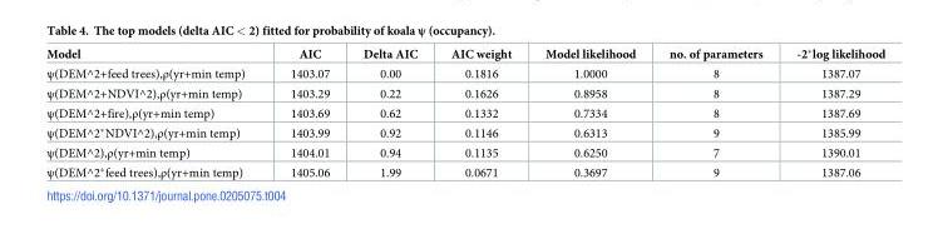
<table><thead><tr><td>Model</td><td>AIC</td><td>Delta AIC</td><td>AIC weight</td><td>Model likelihood</td><td>no. of parameters</td><td>-2*log likelihood</td></tr></thead><tbody><tr><td>ψ(DEM^2+feed trees),ρ(yr+min temp)</td><td>1403.07</td><td>0.00</td><td>0.1816</td><td>1.0000</td><td>8</td><td>1387.07</td></tr><tr><td>ψ(DEM^2+NDVI^2),ρ(yr+min temp)</td><td>1403.29</td><td>0.22</td><td>0.1626</td><td>0.8958</td><td>8</td><td>1387.29</td></tr><tr><td>ψ(DEM^2+fire),ρ(yr+min temp)</td><td>1403.69</td><td>0.62</td><td>0.1332</td><td>0.7334</td><td>8</td><td>1387.69</td></tr><tr><td>ψ(DEM^2*NDVI^2),ρ(yr+min temp)</td><td>1403.99</td><td>0.92</td><td>0.1146</td><td>0.6313</td><td>9</td><td>1385.99</td></tr><tr><td>ψ(DEM^2),ρ(yr+min temp)</td><td>1404.01</td><td>0.94</td><td>0.1135</td><td>0.6250</td><td>7</td><td>1390.01</td></tr><tr><td>ψ(DEM^2*feed trees),ρ(yr+min temp)</td><td>1405.06</td><td>1.99</td><td>0.0671</td><td>0.3697</td><td>9</td><td>1387.06</td></tr></tbody></table>